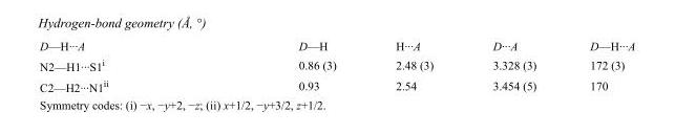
<table><tbody><tr><td>D—H···A</td><td>D—H</td><td>H···A</td><td>D···A</td><td>D—H···A</td></tr><tr><td>N2—H1···S1<sup>i</sup></td><td>0.86 (3)</td><td>2.48 (3)</td><td>3.328 (3)</td><td>172 (3)</td></tr><tr><td>C2—H2···N1<sup>ii</sup></td><td>0.93</td><td>2.54</td><td>3.454 (5)</td><td>170</td></tr></tbody></table>